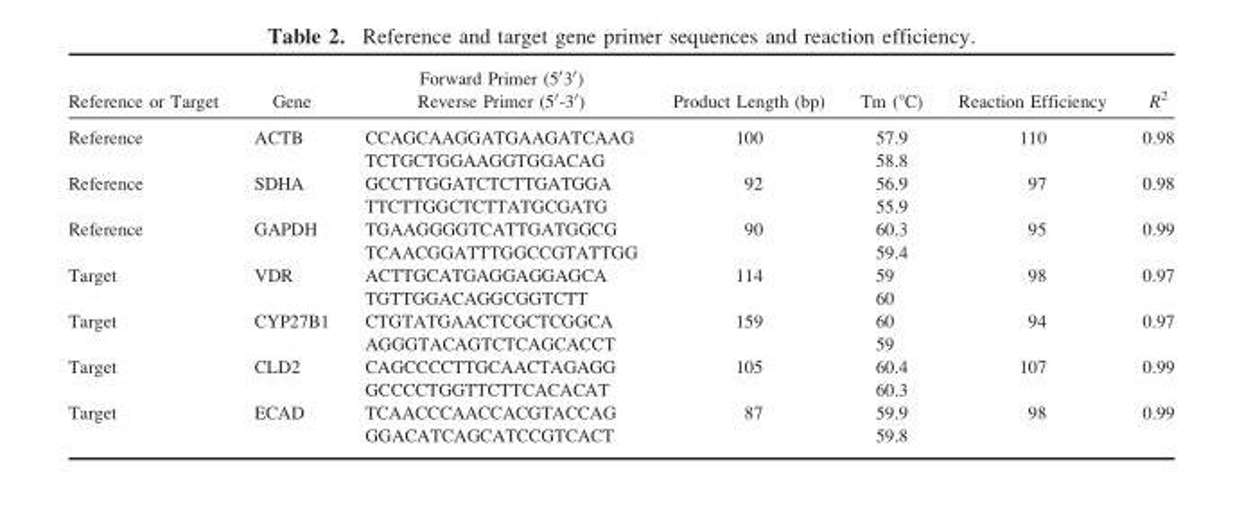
<table><thead><tr><td>Reference or Target</td><td>Gene</td><td>Forward Primer (5′3′) Reverse Primer (5′-3′)</td><td>Product Length (bp)</td><td>Tm (°C)</td><td>Reaction Efficiency</td><td>R<sup>2</sup></td></tr></thead><tbody><tr><td rowspan="2">Reference</td><td>ACTB</td><td>CCAGCAAGGATGAAGATCAAG</td><td>100</td><td>57.9</td><td>110</td><td>0.98</td></tr><tr><td></td><td>TCTGCTGGAAGGTGGACAG</td><td></td><td>58.8</td><td></td><td></td></tr><tr><td rowspan="2">Reference</td><td>SDHA</td><td>GCCTTGGATCTCTTGATGGA</td><td>92</td><td>56.9</td><td>97</td><td>0.98</td></tr><tr><td></td><td>TTCTTGGCTCTTATGCGATG</td><td></td><td>55.9</td><td></td><td></td></tr><tr><td rowspan="2">Reference</td><td>GAPDH</td><td>TGAAGGGGTCATTGATGGCG</td><td>90</td><td>60.3</td><td>95</td><td>0.99</td></tr><tr><td></td><td>TCAACGGATTTGGCCGTATTGG</td><td></td><td>59.4</td><td></td><td></td></tr><tr><td rowspan="2">Target</td><td>VDR</td><td>ACTTGCATGAGGAGGAGCA</td><td>114</td><td>59</td><td>98</td><td>0.97</td></tr><tr><td></td><td>TGTTGGACAGGCGGTCTT</td><td></td><td>60</td><td></td><td></td></tr><tr><td rowspan="2">Target</td><td>CYP27B1</td><td>CTGTATGAACTCGCTCGGCA</td><td>159</td><td>60</td><td>94</td><td>0.97</td></tr><tr><td></td><td>AGGGTACAGTCTCAGCACCT</td><td></td><td>59</td><td></td><td></td></tr><tr><td rowspan="2">Target</td><td>CLD2</td><td>CAGCCCCTTGCAACTAGAGG</td><td>105</td><td>60.4</td><td>107</td><td>0.99</td></tr><tr><td></td><td>GCCCCTGGTTCTTCACACAT</td><td></td><td>60.3</td><td></td><td></td></tr><tr><td rowspan="2">Target</td><td>ECAD</td><td>TCAACCCAACCACGTACCAG</td><td>87</td><td>59.9</td><td>98</td><td>0.99</td></tr><tr><td></td><td>GGACATCAGCATCCGTCACT</td><td></td><td>59.8</td><td></td><td></td></tr></tbody></table>